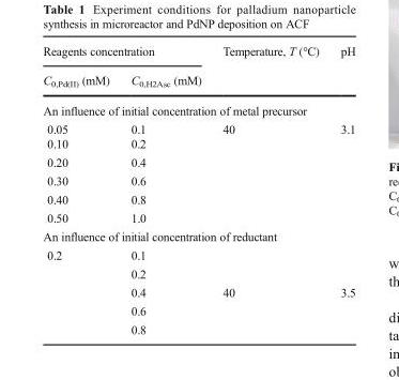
<table><thead><tr><td colspan="2">Reagents concentration</td><td rowspan="2">Temperature, T (°C)</td><td rowspan="2">pH</td></tr><tr><td>C<sub>0,Pd(II)</sub> (mM)</td><td>C<sub>0,H2Asc</sub> (mM)</td></tr></thead><tbody><tr><td colspan="4">An influence of initial concentration of metal precursor</td></tr><tr><td>0.05</td><td>0.1</td><td rowspan="6">40</td><td rowspan="6">3.1</td></tr><tr><td>0.10</td><td>0.2</td></tr><tr><td>0.20</td><td>0.4</td></tr><tr><td>0.30</td><td>0.6</td></tr><tr><td>0.40</td><td>0.8</td></tr><tr><td>0.50</td><td>1.0</td></tr><tr><td colspan="4">An influence of initial concentration of reductant</td></tr><tr><td rowspan="5">0.2</td><td>0.1</td><td></td><td></td></tr><tr><td>0.2</td><td></td><td></td></tr><tr><td>0.4</td><td>40</td><td>3.5</td></tr><tr><td>0.6</td><td></td><td></td></tr><tr><td>0.8</td><td></td><td></td></tr></tbody></table>